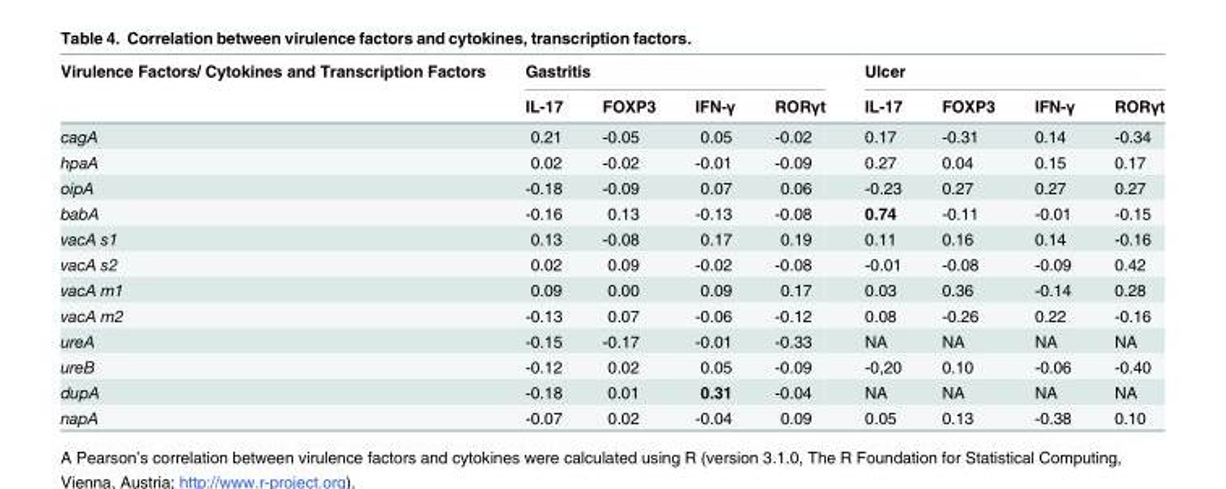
<table><thead><tr><td rowspan="2">Virulence Factors/ Cytokines and Transcription Factors</td><td colspan="4">Gastritis</td><td colspan="4">Ulcer</td></tr><tr><td>IL-17</td><td>FOXP3</td><td>IFN-γ</td><td>RORγt</td><td>IL-17</td><td>FOXP3</td><td>IFN-γ</td><td>RORγt</td></tr></thead><tbody><tr><td>cagA</td><td>0.21</td><td>-0.05</td><td>0.05</td><td>-0.02</td><td>0.17</td><td>-0.31</td><td>0.14</td><td>-0.34</td></tr><tr><td>hpaA</td><td>0.02</td><td>-0.02</td><td>-0.01</td><td>-0.09</td><td>0.27</td><td>0.04</td><td>0.15</td><td>0.17</td></tr><tr><td>oipA</td><td>-0.18</td><td>-0.09</td><td>0.07</td><td>0.06</td><td>-0.23</td><td>0.27</td><td>0.27</td><td>0.27</td></tr><tr><td>babA</td><td>-0.16</td><td>0.13</td><td>-0.13</td><td>-0.08</td><td>0.74</td><td>-0.11</td><td>-0.01</td><td>-0.15</td></tr><tr><td>vacA s1</td><td>0.13</td><td>-0.08</td><td>0.17</td><td>0.19</td><td>0.11</td><td>0.16</td><td>0.14</td><td>-0.16</td></tr><tr><td>vacA s2</td><td>0.02</td><td>0.09</td><td>-0.02</td><td>-0.08</td><td>-0.01</td><td>-0.08</td><td>-0.09</td><td>0.42</td></tr><tr><td>vacA m1</td><td>0.09</td><td>0.00</td><td>0.09</td><td>0.17</td><td>0.03</td><td>0.36</td><td>-0.14</td><td>0.28</td></tr><tr><td>vacA m2</td><td>-0.13</td><td>0.07</td><td>-0.06</td><td>-0.12</td><td>0.08</td><td>-0.26</td><td>0.22</td><td>-0.16</td></tr><tr><td>ureA</td><td>-0.15</td><td>-0.17</td><td>-0.01</td><td>-0.33</td><td>NA</td><td>NA</td><td>NA</td><td>NA</td></tr><tr><td>ureB</td><td>-0.12</td><td>0.02</td><td>0.05</td><td>-0.09</td><td>-0,20</td><td>0.10</td><td>-0.06</td><td>-0.40</td></tr><tr><td>dupA</td><td>-0.18</td><td>0.01</td><td>0.31</td><td>-0.04</td><td>NA</td><td>NA</td><td>NA</td><td>NA</td></tr><tr><td>napA</td><td>-0.07</td><td>0.02</td><td>-0.04</td><td>0.09</td><td>0.05</td><td>0.13</td><td>-0.38</td><td>0.10</td></tr></tbody></table>